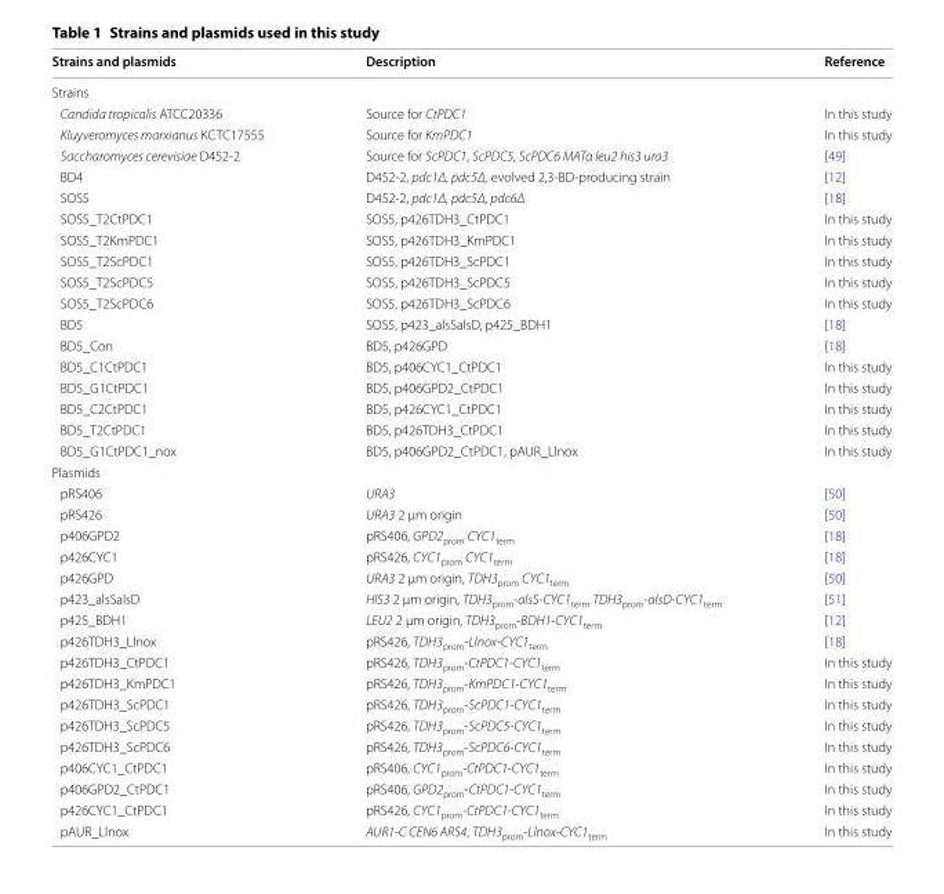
<table><thead><tr><td>Strains and plasmids</td><td>Description</td><td>Reference</td></tr></thead><tbody><tr><td colspan="3">Strains</td></tr><tr><td>Candida tropicalis ATCC20336</td><td>Source for CtPDC1</td><td>In this study</td></tr><tr><td>Kluyveromyces marxianus KCTC17555</td><td>Source for KmPDC1</td><td>In this study</td></tr><tr><td>Saccharomyces cerevisiae D452‑2</td><td>Source for ScPDC1, ScPDC5, ScPDC6 MATα leu2 his3 ura3</td><td>[49]</td></tr><tr><td>BD4</td><td>D452‑2, pdc1Δ, pdc5Δ, evolved 2,3‑BD‑producing strain</td><td>[12]</td></tr><tr><td>SOS5</td><td>D452‑2, pdc1Δ, pdc5Δ, pdc6Δ</td><td>[18]</td></tr><tr><td>SOS5_T2CtPDC1</td><td>SOS5, p426TDH3_CtPDC1</td><td>In this study</td></tr><tr><td>SOS5_T2KmPDC1</td><td>SOS5, p426TDH3_KmPDC1</td><td>In this study</td></tr><tr><td>SOS5_T2ScPDC1</td><td>SOS5, p426TDH3_ScPDC1</td><td>In this study</td></tr><tr><td>SOS5_T2ScPDC5</td><td>SOS5, p426TDH3_ScPDC5</td><td>In this study</td></tr><tr><td>SOS5_T2ScPDC6</td><td>SOS5, p426TDH3_ScPDC6</td><td>In this study</td></tr><tr><td>BD5</td><td>SOS5, p423_alsSalsD, p425_BDH1</td><td>[18]</td></tr><tr><td>BD5_Con</td><td>BD5, p426GPD</td><td>[18]</td></tr><tr><td>BD5_C1CtPDC1</td><td>BD5, p406CYC1_CtPDC1</td><td>In this study</td></tr><tr><td>BD5_G1CtPDC1</td><td>BD5, p406GPD2_CtPDC1</td><td>In this study</td></tr><tr><td>BD5_C2CtPDC1</td><td>BD5, p426CYC1_CtPDC1</td><td>In this study</td></tr><tr><td>BD5_T2CtPDC1</td><td>BD5, p426TDH3_CtPDC1</td><td>In this study</td></tr><tr><td>BD5_G1CtPDC1_nox</td><td>BD5, p406GPD2_CtPDC1, pAUR_Llnox</td><td>In this study</td></tr><tr><td colspan="3">Plasmids</td></tr><tr><td>pRS406</td><td>URA3</td><td>[50]</td></tr><tr><td>pRS426</td><td>URA3 2 μm origin</td><td>[50]</td></tr><tr><td>p406GPD2</td><td>pRS406, GPD2<sub>prom</sub> CYC1<sub>term</sub></td><td>[18]</td></tr><tr><td>p426CYC1</td><td>pRS426, CYC1<sub>prom</sub> CYC1<sub>term</sub></td><td>[18]</td></tr><tr><td>p426GPD</td><td>URA3 2 μm origin, TDH3<sub>prom</sub> CYC1<sub>term</sub></td><td>[50]</td></tr><tr><td>p423_alsSalsD</td><td>HIS3 2 μm origin, TDH3<sub>prom</sub>‑alsS‑CYC1<sub>term</sub> TDH3<sub>prom</sub>‑alsD‑CYC1<sub>term</sub></td><td>[51]</td></tr><tr><td>p425_BDH1</td><td>LEU2 2 μm origin, TDH3<sub>prom</sub>‑BDH1‑CYC1<sub>term</sub></td><td>[12]</td></tr><tr><td>p426TDH3_Llnox</td><td>pRS426, TDH3<sub>prom</sub>‑Llnox‑CYC1<sub>term</sub></td><td>[18]</td></tr><tr><td>p426TDH3_CtPDC1</td><td>pRS426, TDH3<sub>prom</sub>‑CtPDC1‑CYC1<sub>term</sub></td><td>In this study</td></tr><tr><td>p426TDH3_KmPDC1</td><td>pRS426, TDH3<sub>prom</sub>‑KmPDC1‑CYC1<sub>term</sub></td><td>In this study</td></tr><tr><td>p426TDH3_ScPDC1</td><td>pRS426, TDH3<sub>prom</sub>‑ScPDC1‑CYC1<sub>term</sub></td><td>In this study</td></tr><tr><td>p426TDH3_ScPDC5</td><td>pRS426, TDH3<sub>prom</sub>‑ScPDC5‑CYC1<sub>term</sub></td><td>In this study</td></tr><tr><td>p426TDH3_ScPDC6</td><td>pRS426, TDH3<sub>prom</sub>‑ScPDC6‑CYC1<sub>term</sub></td><td>In this study</td></tr><tr><td>p406CYC1_CtPDC1</td><td>pRS406, CYC1<sub>prom</sub>‑CtPDC1‑CYC1<sub>term</sub></td><td>In this study</td></tr><tr><td>p406GPD2_CtPDC1</td><td>pRS406, GPD2<sub>prom</sub>‑CtPDC1‑CYC1<sub>term</sub></td><td>In this study</td></tr><tr><td>p426CYC1_CtPDC1</td><td>pRS426, CYC1<sub>prom</sub>‑CtPDC1‑CYC1<sub>term</sub></td><td>In this study</td></tr><tr><td>pAUR_Llnox</td><td>AUR1‑C CEN6 ARS4, TDH3<sub>prom</sub>‑Llnox‑CYC1<sub>term</sub></td><td>In this study</td></tr></tbody></table>